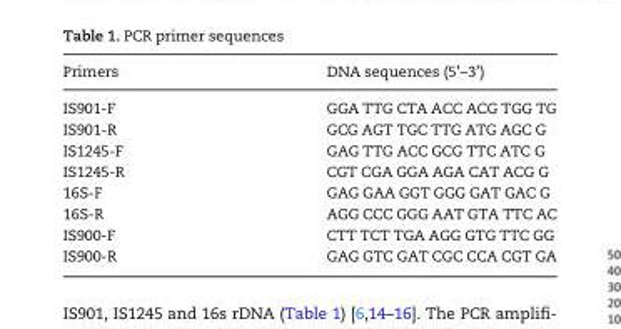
<table><thead><tr><td>Primers</td><td>DNA sequences (5’–3’)</td></tr></thead><tbody><tr><td>IS901-F</td><td>GGA TTG CTA ACC ACG TGG TG</td></tr><tr><td>IS901-R</td><td>GCG AGT TGC TTG ATG AGC G</td></tr><tr><td>IS1245-F</td><td>GAG TTG ACC GCG TTC ATC G</td></tr><tr><td>IS1245-R</td><td>CGT CGA GGA AGA CAT ACG G</td></tr><tr><td>16S-F</td><td>GAG GAA GGT GGG GAT GAC G</td></tr><tr><td>16S-R</td><td>AGG CCC GGG AAT GTA TTC AC</td></tr><tr><td>IS900-F</td><td>CTT TCT TGA AGG GTG TTC GG</td></tr><tr><td>IS900-R</td><td>GAG GTC GAT CGC CCA CGT GA</td></tr></tbody></table>